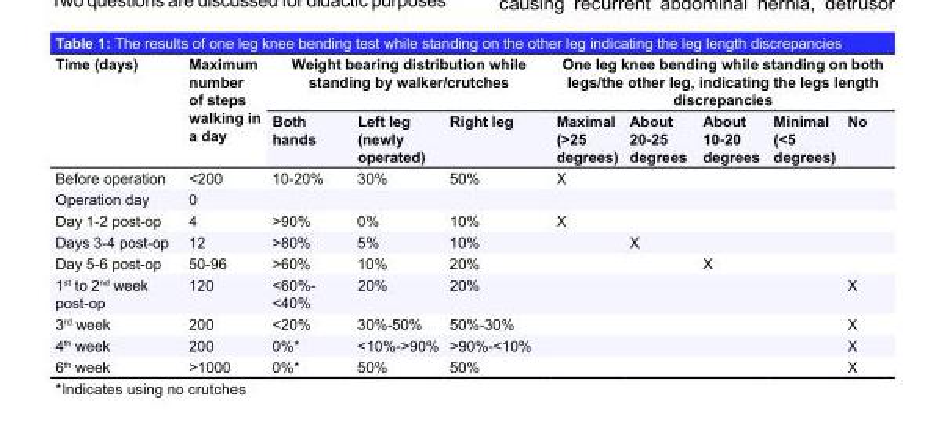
<table><thead><tr><td rowspan="2">Time (days)</td><td rowspan="2">Maximum number of steps walking in a day</td><td colspan="3">Weight bearing distribution while standing by walker/crutches</td><td colspan="5">One leg knee bending while standing on both legs/the other leg, indicating the legs length discrepancies</td></tr><tr><td>Both hands</td><td>Left leg (newly operated)</td><td>Right leg</td><td>Maximal (&gt;25 degrees)</td><td>About 20-25 degrees</td><td>About 10-20 degrees</td><td>Minimal (&lt;5 degrees)</td><td>No</td></tr></thead><tbody><tr><td>Before operation</td><td>&lt;200</td><td>10-20%</td><td>30%</td><td>50%</td><td>X</td><td></td><td></td><td></td><td></td></tr><tr><td>Operation day</td><td>0</td><td></td><td></td><td></td><td></td><td></td><td></td><td></td><td></td></tr><tr><td>Day 1-2 post-op</td><td>4</td><td>&gt;90%</td><td>0%</td><td>10%</td><td>X</td><td></td><td></td><td></td><td></td></tr><tr><td>Days 3-4 post-op</td><td>12</td><td>&gt;80%</td><td>5%</td><td>10%</td><td></td><td>X</td><td></td><td></td><td></td></tr><tr><td>Day 5-6 post-op</td><td>50-96</td><td>&gt;60%</td><td>10%</td><td>20%</td><td></td><td></td><td>X</td><td></td><td></td></tr><tr><td>1<sup>st</sup> to 2<sup>nd</sup> week post-op</td><td>120</td><td>&lt;60%- &lt;40%</td><td>20%</td><td>20%</td><td></td><td></td><td></td><td></td><td>X</td></tr><tr><td>3<sup>rd</sup> week</td><td>200</td><td>&lt;20%</td><td>30%-50%</td><td>50%-30%</td><td></td><td></td><td></td><td></td><td>X</td></tr><tr><td>4<sup>th</sup> week</td><td>200</td><td>0%*</td><td>&lt;10%-&gt;90%</td><td>&gt;90%-&lt;10%</td><td></td><td></td><td></td><td></td><td>X</td></tr><tr><td>6<sup>th</sup> week</td><td>&gt;1000</td><td>0%*</td><td>50%</td><td>50%</td><td></td><td></td><td></td><td></td><td>X</td></tr></tbody></table>